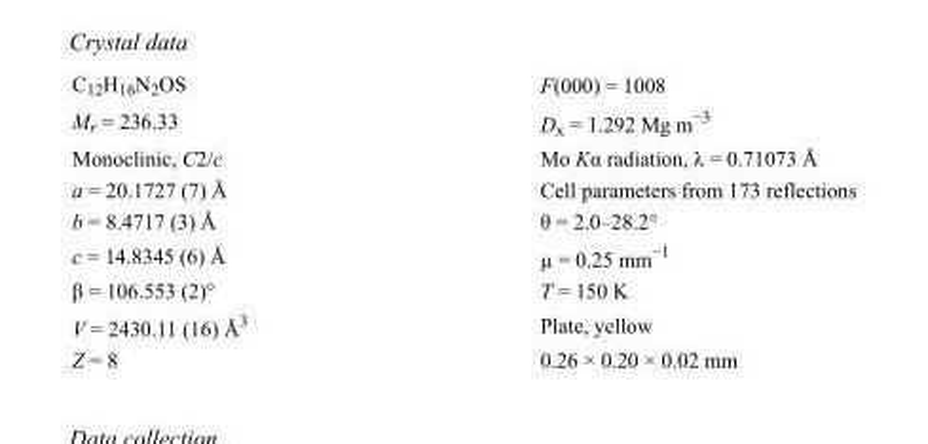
<table><tbody><tr><td>C<sub>12</sub>H<sub>16</sub>N<sub>2</sub>OS</td><td>F(000) = 1008</td></tr><tr><td>M<sub>r</sub> = 236.33</td><td>D<sub>x</sub> = 1.292 Mg m<sup>−3</sup></td></tr><tr><td>Monoclinic, C2/c</td><td>Mo Kα radiation, λ = 0.71073 Å</td></tr><tr><td>a = 20.1727 (7) Å</td><td>Cell parameters from 173 reflections</td></tr><tr><td>b = 8.4717 (3) Å</td><td>θ = 2.0–28.2°</td></tr><tr><td>c = 14.8345 (6) Å</td><td>µ = 0.25 mm<sup>−1</sup></td></tr><tr><td>β = 106.553 (2)°</td><td>T = 150 K</td></tr><tr><td>V = 2430.11 (16) Å<sup>3</sup></td><td>Plate, yellow</td></tr><tr><td>Z = 8</td><td>0.26 × 0.20 × 0.02 mm</td></tr></tbody></table>